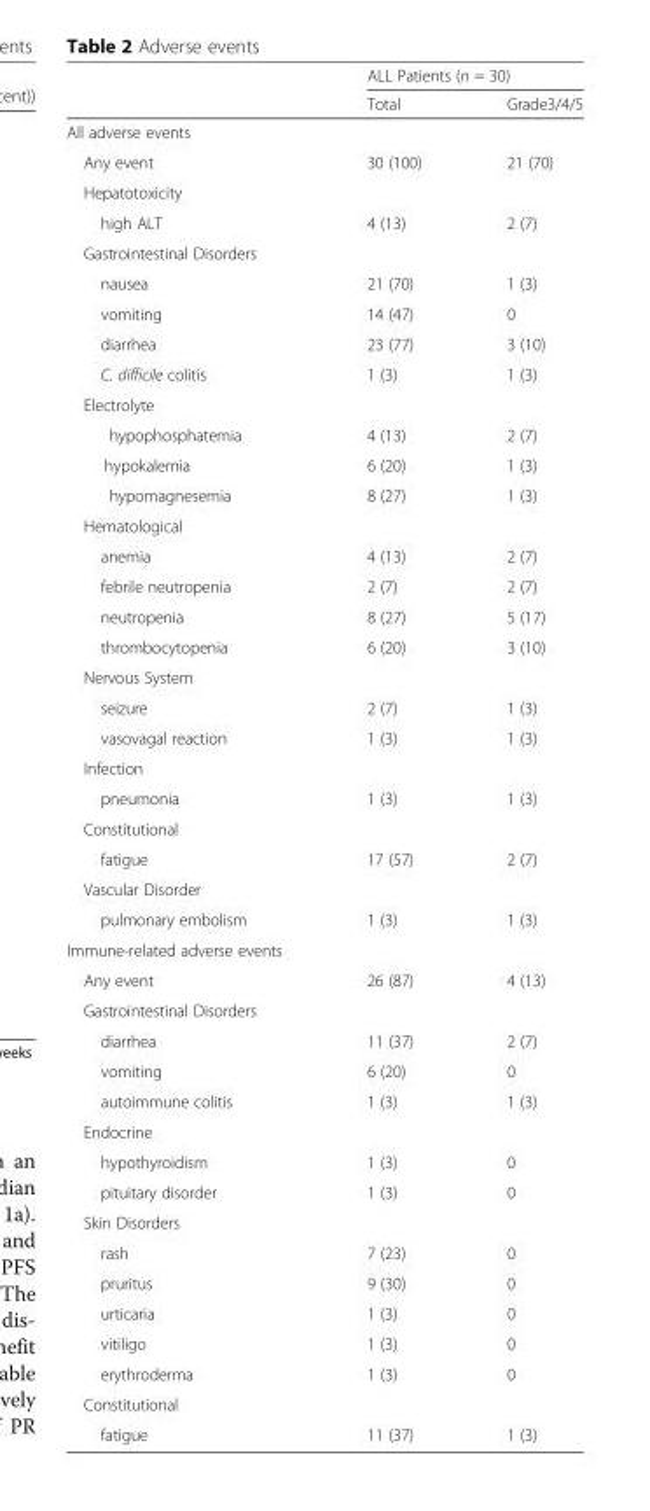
<table><thead><tr><td rowspan="2"></td><td colspan="2">ALL Patients (n = 30)</td></tr><tr><td>Total</td><td>Grade3/4/5</td></tr></thead><tbody><tr><td colspan="3">All adverse events</td></tr><tr><td>Any event</td><td>30 (100)</td><td>21 (70)</td></tr><tr><td colspan="3">Hepatotoxicity</td></tr><tr><td>high ALT</td><td>4 (13)</td><td>2 (7)</td></tr><tr><td colspan="3">Gastrointestinal Disorders</td></tr><tr><td>nausea</td><td>21 (70)</td><td>1 (3)</td></tr><tr><td>vomiting</td><td>14 (47)</td><td>0</td></tr><tr><td>diarrhea</td><td>23 (77)</td><td>3 (10)</td></tr><tr><td>C. difficile colitis</td><td>1 (3)</td><td>1 (3)</td></tr><tr><td colspan="3">Electrolyte</td></tr><tr><td>hypophosphatemia</td><td>4 (13)</td><td>2 (7)</td></tr><tr><td>hypokalemia</td><td>6 (20)</td><td>1 (3)</td></tr><tr><td>hypomagnesemia</td><td>8 (27)</td><td>1 (3)</td></tr><tr><td colspan="3">Hematological</td></tr><tr><td>anemia</td><td>4 (13)</td><td>2 (7)</td></tr><tr><td>febrile neutropenia</td><td>2 (7)</td><td>2 (7)</td></tr><tr><td>neutropenia</td><td>8 (27)</td><td>5 (17)</td></tr><tr><td>thrombocytopenia</td><td>6 (20)</td><td>3 (10)</td></tr><tr><td colspan="3">Nervous System</td></tr><tr><td>seizure</td><td>2 (7)</td><td>1 (3)</td></tr><tr><td>vasovagal reaction</td><td>1 (3)</td><td>1 (3)</td></tr><tr><td colspan="3">Infection</td></tr><tr><td>pneumonia</td><td>1 (3)</td><td>1 (3)</td></tr><tr><td colspan="3">Constitutional</td></tr><tr><td>fatigue</td><td>17 (57)</td><td>2 (7)</td></tr><tr><td colspan="3">Vascular Disorder</td></tr><tr><td>pulmonary embolism</td><td>1 (3)</td><td>1 (3)</td></tr><tr><td colspan="3">Immune-related adverse events</td></tr><tr><td>Any event</td><td>26 (87)</td><td>4 (13)</td></tr><tr><td colspan="3">Gastrointestinal Disorders</td></tr><tr><td>diarrhea</td><td>11 (37)</td><td>2 (7)</td></tr><tr><td>vomiting</td><td>6 (20)</td><td>0</td></tr><tr><td>autoimmune colitis</td><td>1 (3)</td><td>1 (3)</td></tr><tr><td colspan="3">Endocrine</td></tr><tr><td>hypothyroidism</td><td>1 (3)</td><td>0</td></tr><tr><td>pituitary disorder</td><td>1 (3)</td><td>0</td></tr><tr><td colspan="3">Skin Disorders</td></tr><tr><td>rash</td><td>7 (23)</td><td>0</td></tr><tr><td>pruritus</td><td>9 (30)</td><td>0</td></tr><tr><td>urticaria</td><td>1 (3)</td><td>0</td></tr><tr><td>vitiligo</td><td>1 (3)</td><td>0</td></tr><tr><td>erythroderma</td><td>1 (3)</td><td>0</td></tr><tr><td colspan="3">Constitutional</td></tr><tr><td>fatigue</td><td>11 (37)</td><td>1 (3)</td></tr></tbody></table>